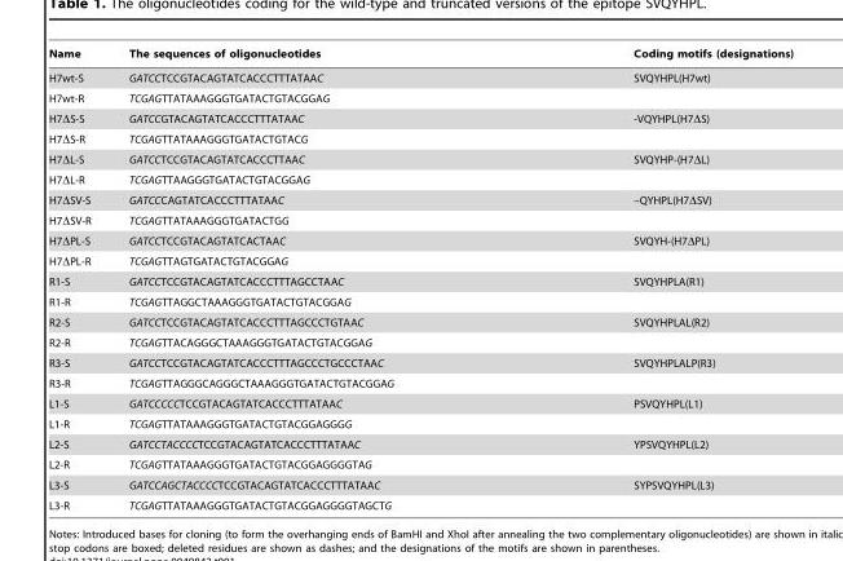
<table><thead><tr><td>Name</td><td>The sequences of oligonucleotides</td><td>Coding motifs (designations)</td></tr></thead><tbody><tr><td>H7wt-S</td><td>GATCCTCCGTACAGTATCACCCTTTATAAC</td><td>SVQYHPL(H7wt)</td></tr><tr><td>H7wt-R</td><td>TCGAGTTATAAAGGGTGATACTGTACGGAG</td><td></td></tr><tr><td>H7ΔS-S</td><td>GATCCGTACAGTATCACCCTTTATAAC</td><td>-VQYHPL(H7ΔS)</td></tr><tr><td>H7ΔS-R</td><td>TCGAGTTATAAAGGGTGATACTGTACG</td><td></td></tr><tr><td>H7ΔL-S</td><td>GATCCTCCGTACAGTATCACCCTTAAC</td><td>SVQYHP-(H7ΔL)</td></tr><tr><td>H7ΔL-R</td><td>TCGAGTTAAGGGTGATACTGTACGGAG</td><td></td></tr><tr><td>H7ΔSV-S</td><td>GATCCCAGTATCACCCTTTATAAC</td><td>–QYHPL(H7ΔSV)</td></tr><tr><td>H7ΔSV-R</td><td>TCGAGTTATAAAGGGTGATACTGG</td><td></td></tr><tr><td>H7ΔPL-S</td><td>GATCCTCCGTACAGTATCACTAAC</td><td>SVQYH-(H7ΔPL)</td></tr><tr><td>H7ΔPL-R</td><td>TCGAGTTAGTGATACTGTACGGAG</td><td></td></tr><tr><td>R1-S</td><td>GATCCTCCGTACAGTATCACCCTTTAGCCTAAC</td><td>SVQYHPLA(R1)</td></tr><tr><td>R1-R</td><td>TCGAGTTAGGCTAAAGGGTGATACTGTACGGAG</td><td></td></tr><tr><td>R2-S</td><td>GATCCTCCGTACAGTATCACCCTTTAGCCCTGTAAC</td><td>SVQYHPLAL(R2)</td></tr><tr><td>R2-R</td><td>TCGAGTTACAGGGCTAAAGGGTGATACTGTACGGAG</td><td></td></tr><tr><td>R3-S</td><td>GATCCTCCGTACAGTATCACCCTTTAGCCCTGCCCTAAC</td><td>SVQYHPLALP(R3)</td></tr><tr><td>R3-R</td><td>TCGAGTTAGGGCAGGGCTAAAGGGTGATACTGTACGGAG</td><td></td></tr><tr><td>L1-S</td><td>GATCCCCCTCCGTACAGTATCACCCTTTATAAC</td><td>PSVQYHPL(L1)</td></tr><tr><td>L1-R</td><td>TCGAGTTATAAAGGGTGATACTGTACGGAGGGG</td><td></td></tr><tr><td>L2-S</td><td>GATCCTACCCCTCCGTACAGTATCACCCTTTATAAC</td><td>YPSVQYHPL(L2)</td></tr><tr><td>L2-R</td><td>TCGAGTTATAAAGGGTGATACTGTACGGAGGGGTAG</td><td></td></tr><tr><td>L3-S</td><td>GATCCAGCTACCCCTCCGTACAGTATCACCCTTTATAAC</td><td>SYPSVQYHPL(L3)</td></tr><tr><td>L3-R</td><td>TCGAGTTATAAAGGGTGATACTGTACGGAGGGGTAGCTG</td><td></td></tr></tbody></table>